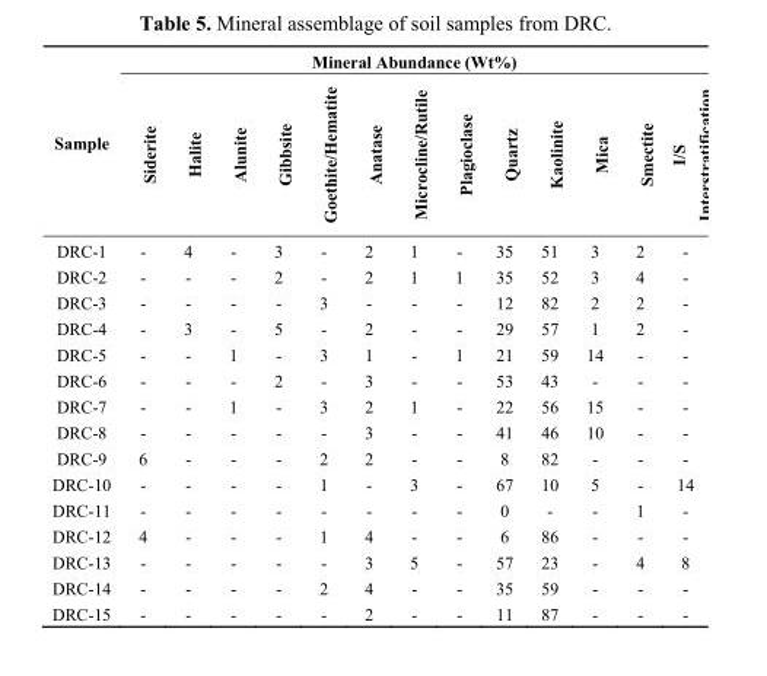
<table><thead><tr><td rowspan="2">Sample</td><td colspan="13">Mineral Abundance (Wt%)</td></tr><tr><td>Siderite</td><td>Halite</td><td>Alunite</td><td>Gibbsite</td><td>Goethite/Hematite</td><td>Anatase</td><td>Microcline/Rutile</td><td>Plagioclase</td><td>Quartz</td><td>Kaolinite</td><td>Mica</td><td>Smectite</td><td>I/S Interstratification</td></tr></thead><tbody><tr><td>DRC-1</td><td>-</td><td>4</td><td>-</td><td>3</td><td>-</td><td>2</td><td>1</td><td>-</td><td>35</td><td>51</td><td>3</td><td>2</td><td>-</td></tr><tr><td>DRC-2</td><td>-</td><td>-</td><td>-</td><td>2</td><td>-</td><td>2</td><td>1</td><td>1</td><td>35</td><td>52</td><td>3</td><td>4</td><td>-</td></tr><tr><td>DRC-3</td><td>-</td><td>-</td><td>-</td><td>-</td><td>3</td><td>-</td><td>-</td><td>-</td><td>12</td><td>82</td><td>2</td><td>2</td><td>-</td></tr><tr><td>DRC-4</td><td>-</td><td>3</td><td>-</td><td>5</td><td>-</td><td>2</td><td>-</td><td>-</td><td>29</td><td>57</td><td>1</td><td>2</td><td>-</td></tr><tr><td>DRC-5</td><td>-</td><td>-</td><td>1</td><td>-</td><td>3</td><td>1</td><td>-</td><td>1</td><td>21</td><td>59</td><td>14</td><td>-</td><td>-</td></tr><tr><td>DRC-6</td><td>-</td><td>-</td><td>-</td><td>2</td><td>-</td><td>3</td><td>-</td><td>-</td><td>53</td><td>43</td><td>-</td><td>-</td><td>-</td></tr><tr><td>DRC-7</td><td>-</td><td>-</td><td>1</td><td>-</td><td>3</td><td>2</td><td>1</td><td>-</td><td>22</td><td>56</td><td>15</td><td>-</td><td>-</td></tr><tr><td>DRC-8</td><td>-</td><td>-</td><td>-</td><td>-</td><td>-</td><td>3</td><td>-</td><td>-</td><td>41</td><td>46</td><td>10</td><td>-</td><td>-</td></tr><tr><td>DRC-9</td><td>6</td><td>-</td><td>-</td><td>-</td><td>2</td><td>2</td><td>-</td><td>-</td><td>8</td><td>82</td><td>-</td><td>-</td><td>-</td></tr><tr><td>DRC-10</td><td>-</td><td>-</td><td>-</td><td>-</td><td>1</td><td>-</td><td>3</td><td>-</td><td>67</td><td>10</td><td>5</td><td>-</td><td>14</td></tr><tr><td>DRC-11</td><td>-</td><td>-</td><td>-</td><td>-</td><td>-</td><td>-</td><td>-</td><td>-</td><td>0</td><td>-</td><td>-</td><td>1</td><td>-</td></tr><tr><td>DRC-12</td><td>4</td><td>-</td><td>-</td><td>-</td><td>1</td><td>4</td><td>-</td><td>-</td><td>6</td><td>86</td><td>-</td><td>-</td><td>-</td></tr><tr><td>DRC-13</td><td>-</td><td>-</td><td>-</td><td>-</td><td>-</td><td>3</td><td>5</td><td>-</td><td>57</td><td>23</td><td>-</td><td>4</td><td>8</td></tr><tr><td>DRC-14</td><td>-</td><td>-</td><td>-</td><td>-</td><td>2</td><td>4</td><td>-</td><td>-</td><td>35</td><td>59</td><td>-</td><td>-</td><td>-</td></tr><tr><td>DRC-15</td><td>-</td><td>-</td><td>-</td><td>-</td><td>-</td><td>2</td><td>-</td><td>-</td><td>11</td><td>87</td><td>-</td><td>-</td><td>-</td></tr></tbody></table>